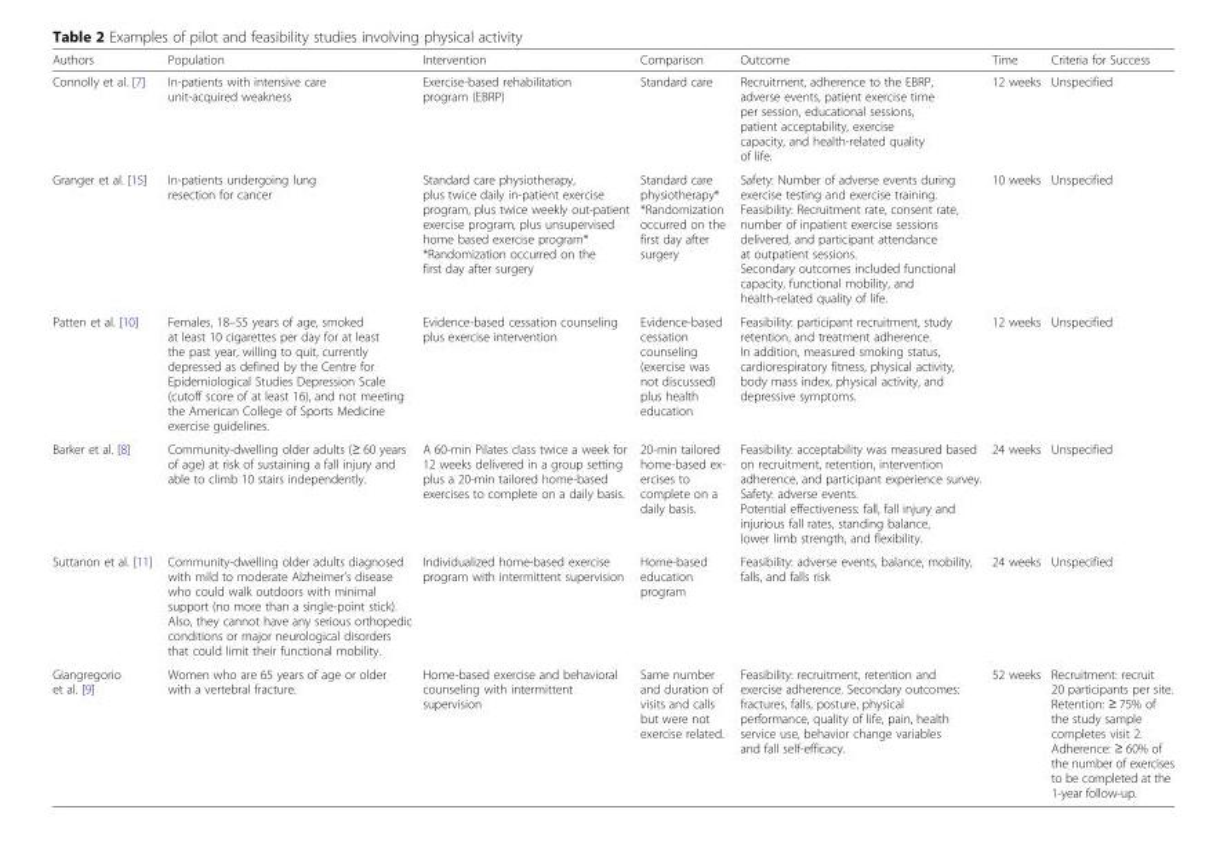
<table><thead><tr><td>Authors</td><td>Population</td><td>Intervention</td><td>Comparison</td><td>Outcome</td><td>Time</td><td>Criteria for Success</td></tr></thead><tbody><tr><td>Connolly et al. [7]</td><td>In-patients with intensive care unit-acquired weakness</td><td>Exercise-based rehabilitation program (EBRP)</td><td>Standard care</td><td>Recruitment, adherence to the EBRP, adverse events, patient exercise time per session, educational sessions, patient acceptability, exercise capacity, and health-related quality of life.</td><td>12 weeks</td><td>Unspecified</td></tr><tr><td>Granger et al. [15]</td><td>In-patients undergoing lung resection for cancer</td><td>Standard care physiotherapy, plus twice daily in-patient exercise program, plus twice weekly out-patient exercise program, plus unsupervised home based exercise program* *Randomization occurred on the first day after surgery</td><td>Standard care physiotherapy* *Randomization occurred on the first day after surgery</td><td>Safety: Number of adverse events during exercise testing and exercise training. Feasibility: Recruitment rate, consent rate, number of inpatient exercise sessions delivered, and participant attendance at outpatient sessions. Secondary outcomes included functional capacity, functional mobility, and health-related quality of life.</td><td>10 weeks</td><td>Unspecified</td></tr><tr><td>Patten et al. [10]</td><td>Females, 18–55 years of age, smoked at least 10 cigarettes per day for at least the past year, willing to quit, currently depressed as defined by the Centre for Epidemiological Studies Depression Scale (cutoff score of at least 16), and not meeting the American College of Sports Medicine exercise guidelines.</td><td>Evidence-based cessation counseling plus exercise intervention</td><td>Evidence-based cessation counseling (exercise was not discussed) plus health education</td><td>Feasibility: participant recruitment, study retention, and treatment adherence. In addition, measured smoking status, cardiorespiratory fitness, physical activity, body mass index, physical activity, and depressive symptoms.</td><td>12 weeks</td><td>Unspecified</td></tr><tr><td>Barker et al. [8]</td><td>Community-dwelling older adults (≥ 60 years of age) at risk of sustaining a fall injury and able to climb 10 stairs independently.</td><td>A 60-min Pilates class twice a week for 12 weeks delivered in a group setting plus a 20-min tailored home-based exercises to complete on a daily basis.</td><td>20-min tailored home-based ex- ercises to complete on a daily basis.</td><td>Feasibility: acceptability was measured based on recruitment, retention, intervention adherence, and participant experience survey. Safety: adverse events. Potential effectiveness: fall, fall injury and injurious fall rates, standing balance, lower limb strength, and flexibility.</td><td>24 weeks</td><td>Unspecified</td></tr><tr><td>Suttanon et al. [11]</td><td>Community-dwelling older adults diagnosed with mild to moderate Alzheimer’s disease who could walk outdoors with minimal support (no more than a single-point stick). Also, they cannot have any serious orthopedic conditions or major neurological disorders that could limit their functional mobility.</td><td>Individualized home-based exercise program with intermittent supervision</td><td>Home-based education program</td><td>Feasibility: adverse events, balance, mobility, falls, and falls risk</td><td>24 weeks</td><td>Unspecified</td></tr><tr><td>Giangregorio et al. [9]</td><td>Women who are 65 years of age or older with a vertebral fracture.</td><td>Home-based exercise and behavioral counseling with intermittent supervision</td><td>Same number and duration of visits and calls but were not exercise related.</td><td>Feasibility: recruitment, retention and exercise adherence. Secondary outcomes: fractures, falls, posture, physical performance, quality of life, pain, health service use, behavior change variables and fall self-efficacy.</td><td>52 weeks</td><td>Recruitment: recruit 20 participants per site. Retention: ≥ 75% of the study sample completes visit 2. Adherence: ≥ 60% of the number of exercises to be completed at the 1-year follow-up.</td></tr></tbody></table>